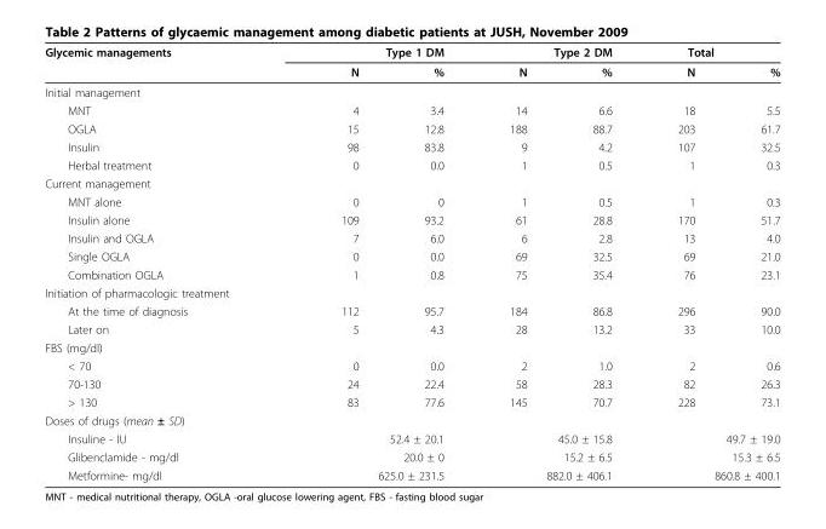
<table><thead><tr><td rowspan="2">Glycemic managements</td><td colspan="2">Type 1 DM</td><td colspan="2">Type 2 DM</td><td colspan="2">Total</td></tr><tr><td>N</td><td>%</td><td>N</td><td>%</td><td>N</td><td>%</td></tr></thead><tbody><tr><td colspan="7">Initial management</td></tr><tr><td>MNT</td><td>4</td><td>3.4</td><td>14</td><td>6.6</td><td>18</td><td>5.5</td></tr><tr><td>OGLA</td><td>15</td><td>12.8</td><td>188</td><td>88.7</td><td>203</td><td>61.7</td></tr><tr><td>Insulin</td><td>98</td><td>83.8</td><td>9</td><td>4.2</td><td>107</td><td>32.5</td></tr><tr><td>Herbal treatment</td><td>0</td><td>0.0</td><td>1</td><td>0.5</td><td>1</td><td>0.3</td></tr><tr><td colspan="7">Current management</td></tr><tr><td>MNT alone</td><td>0</td><td>0</td><td>1</td><td>0.5</td><td>1</td><td>0.3</td></tr><tr><td>Insulin alone</td><td>109</td><td>93.2</td><td>61</td><td>28.8</td><td>170</td><td>51.7</td></tr><tr><td>Insulin and OGLA</td><td>7</td><td>6.0</td><td>6</td><td>2.8</td><td>13</td><td>4.0</td></tr><tr><td>Single OGLA</td><td>0</td><td>0.0</td><td>69</td><td>32.5</td><td>69</td><td>21.0</td></tr><tr><td>Combination OGLA</td><td>1</td><td>0.8</td><td>75</td><td>35.4</td><td>76</td><td>23.1</td></tr><tr><td colspan="7">Initiation of pharmacologic treatment</td></tr><tr><td>At the time of diagnosis</td><td>112</td><td>95.7</td><td>184</td><td>86.8</td><td>296</td><td>90.0</td></tr><tr><td>Later on</td><td>5</td><td>4.3</td><td>28</td><td>13.2</td><td>33</td><td>10.0</td></tr><tr><td colspan="7">FBS (mg/dl)</td></tr><tr><td>&lt; 70</td><td>0</td><td>0.0</td><td>2</td><td>1.0</td><td>2</td><td>0.6</td></tr><tr><td>70-130</td><td>24</td><td>22.4</td><td>58</td><td>28.3</td><td>82</td><td>26.3</td></tr><tr><td>&gt; 130</td><td>83</td><td>77.6</td><td>145</td><td>70.7</td><td>228</td><td>73.1</td></tr><tr><td colspan="7">Doses of drugs (mean ± SD)</td></tr><tr><td>Insuline - IU</td><td colspan="2">52.4 ± 20.1</td><td colspan="2">45.0 ± 15.8</td><td colspan="2">49.7 ± 19.0</td></tr><tr><td>Glibenclamide - mg/dl</td><td colspan="2">20.0 ± 0</td><td colspan="2">15.2 ± 6.5</td><td colspan="2">15.3 ± 6.5</td></tr><tr><td>Metformine- mg/dl</td><td colspan="2">625.0 ± 231.5</td><td colspan="2">882.0 ± 406.1</td><td colspan="2">860.8 ± 400.1</td></tr></tbody></table>